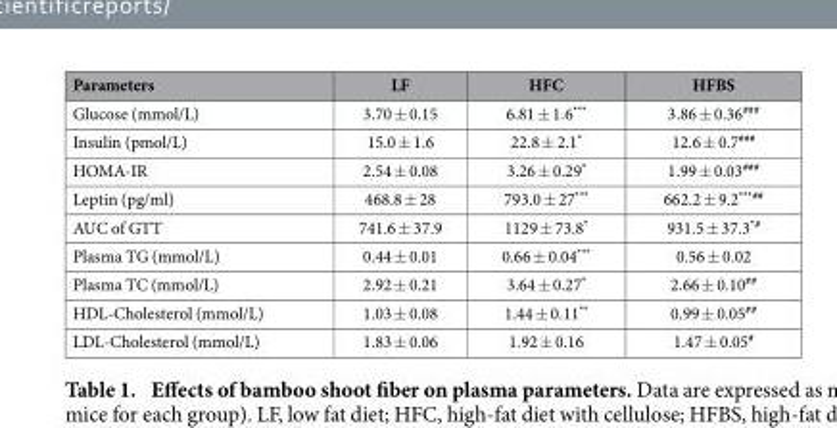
<table><thead><tr><td>Parameters</td><td>LF</td><td>HFC</td><td>HFBS</td></tr></thead><tbody><tr><td>Glucose (mmol/L)</td><td>3.70 ± 0.15</td><td>6.81 ± 1.6***</td><td>3.86 ± 0.36<sup>###</sup></td></tr><tr><td>Insulin (pmol/L)</td><td>15.0 ± 1.6</td><td>22.8 ± 2.1*</td><td>12.6 ± 0.7<sup>###</sup></td></tr><tr><td>HOMA-IR</td><td>2.54 ± 0.08</td><td>3.26 ± 0.29*</td><td>1.99 ± 0.03<sup>###</sup></td></tr><tr><td>Leptin (pg/ml)</td><td>468.8 ± 28</td><td>793.0 ± 27***</td><td>662.2 ± 9.2<sup>***##</sup></td></tr><tr><td>AUC of GTT</td><td>741.6 ± 37.9</td><td>1129 ± 73.8*</td><td>931.5 ± 37.3<sup>*#</sup></td></tr><tr><td>Plasma TG (mmol/L)</td><td>0.44 ± 0.01</td><td>0.66 ± 0.04***</td><td>0.56 ± 0.02</td></tr><tr><td>Plasma TC (mmol/L)</td><td>2.92 ± 0.21</td><td>3.64 ± 0.27*</td><td>2.66 ± 0.10<sup>##</sup></td></tr><tr><td>HDL-Cholesterol (mmol/L)</td><td>1.03 ± 0.08</td><td>1.44 ± 0.11**</td><td>0.99 ± 0.05<sup>##</sup></td></tr><tr><td>LDL-Cholesterol (mmol/L)</td><td>1.83 ± 0.06</td><td>1.92 ± 0.16</td><td>1.47 ± 0.05<sup>#</sup></td></tr></tbody></table>